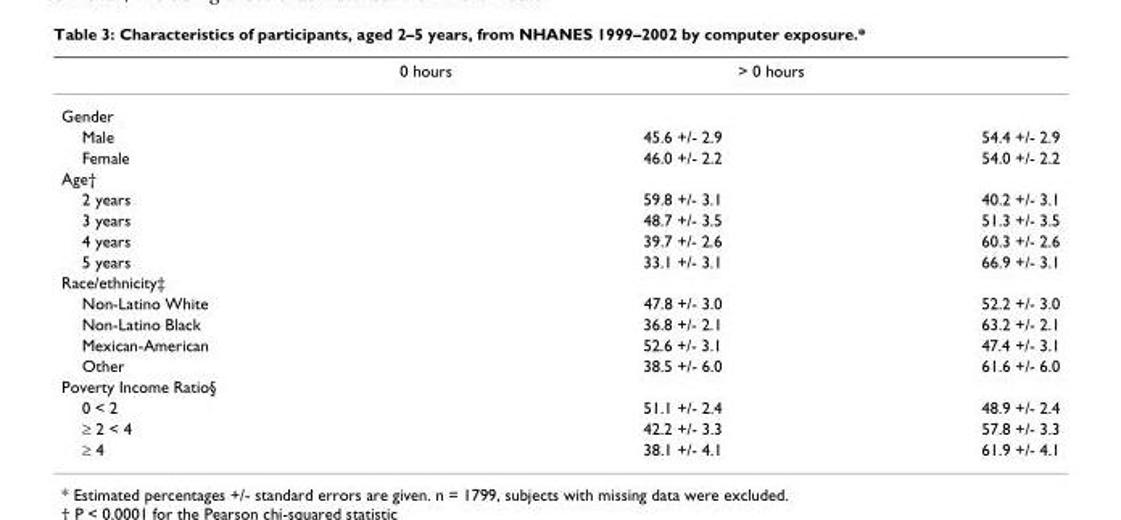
<table><thead><tr><td></td><td>0 hours</td><td>&gt; 0 hours</td></tr></thead><tbody><tr><td colspan="3">Gender</td></tr><tr><td>Male</td><td>45.6 +/- 2.9</td><td>54.4 +/- 2.9</td></tr><tr><td>Female</td><td>46.0 +/- 2.2</td><td>54.0 +/- 2.2</td></tr><tr><td colspan="3">Age†</td></tr><tr><td>2 years</td><td>59.8 +/- 3.1</td><td>40.2 +/- 3.1</td></tr><tr><td>3 years</td><td>48.7 +/- 3.5</td><td>51.3 +/- 3.5</td></tr><tr><td>4 years</td><td>39.7 +/- 2.6</td><td>60.3 +/- 2.6</td></tr><tr><td>5 years</td><td>33.1 +/- 3.1</td><td>66.9 +/- 3.1</td></tr><tr><td colspan="3">Race/ethnicity‡</td></tr><tr><td>Non-Latino White</td><td>47.8 +/- 3.0</td><td>52.2 +/- 3.0</td></tr><tr><td>Non-Latino Black</td><td>36.8 +/- 2.1</td><td>63.2 +/- 2.1</td></tr><tr><td>Mexican-American</td><td>52.6 +/- 3.1</td><td>47.4 +/- 3.1</td></tr><tr><td>Other</td><td>38.5 +/- 6.0</td><td>61.6 +/- 6.0</td></tr><tr><td colspan="3">Poverty Income Ratio§</td></tr><tr><td>0 &lt; 2</td><td>51.1 +/- 2.4</td><td>48.9 +/- 2.4</td></tr><tr><td>≥ 2 &lt; 4</td><td>42.2 +/- 3.3</td><td>57.8 +/- 3.3</td></tr><tr><td>≥ 4</td><td>38.1 +/- 4.1</td><td>61.9 +/- 4.1</td></tr></tbody></table>